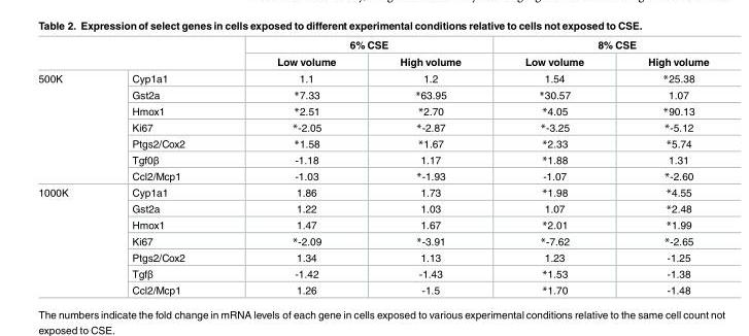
<table><thead><tr><td rowspan="2"></td><td rowspan="2"></td><td colspan="2">6% CSE</td><td colspan="2">8% CSE</td></tr><tr><td>Low volume</td><td>High volume</td><td>Low volume</td><td>High volume</td></tr></thead><tbody><tr><td rowspan="7">500K</td><td>Cyp1a1</td><td>1.1</td><td>1.2</td><td>1.54</td><td>*25.38</td></tr><tr><td>Gst2a</td><td>*7.33</td><td>*63.95</td><td>*30.57</td><td>1.07</td></tr><tr><td>Hmox1</td><td>*2.51</td><td>*2.70</td><td>*4.05</td><td>*90.13</td></tr><tr><td>Ki67</td><td>*-2.05</td><td>*-2.87</td><td>*-3.25</td><td>*-5.12</td></tr><tr><td>Ptgs2/Cox2</td><td>*1.58</td><td>*1.67</td><td>*2.33</td><td>*5.74</td></tr><tr><td>Tgf0β</td><td>-1.18</td><td>1.17</td><td>*1.88</td><td>1.31</td></tr><tr><td>Ccl2/Mcp1</td><td>-1.03</td><td>*-1.93</td><td>-1.07</td><td>*-2.60</td></tr><tr><td rowspan="7">1000K</td><td>Cyp1a1</td><td>1.86</td><td>1.73</td><td>*1.98</td><td>*4.55</td></tr><tr><td>Gst2a</td><td>1.22</td><td>1.03</td><td>1.07</td><td>*2.48</td></tr><tr><td>Hmox1</td><td>1.47</td><td>1.67</td><td>*2.01</td><td>*1.99</td></tr><tr><td>Ki67</td><td>*-2.09</td><td>*-3.91</td><td>*-7.62</td><td>*-2.65</td></tr><tr><td>Ptgs2/Cox2</td><td>1.34</td><td>1.13</td><td>1.23</td><td>-1.25</td></tr><tr><td>Tgfβ</td><td>-1.42</td><td>-1.43</td><td>*1.53</td><td>-1.38</td></tr><tr><td>Ccl2/Mcp1</td><td>1.26</td><td>-1.5</td><td>*1.70</td><td>-1.48</td></tr></tbody></table>